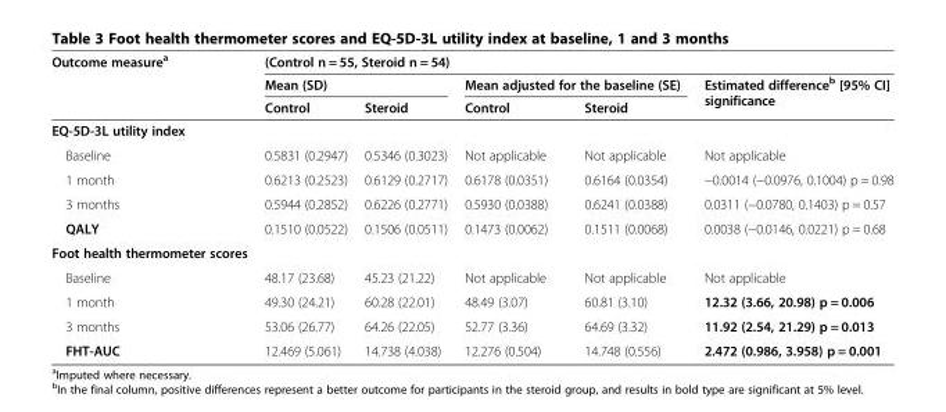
<table><thead><tr><td rowspan="3">Outcome measure<sup>a</sup></td><td colspan="5">(Control n = 55, Steroid n = 54)</td></tr><tr><td colspan="2">Mean (SD)</td><td colspan="2">Mean adjusted for the baseline (SE)</td><td rowspan="2">Estimated difference<sup>b</sup> [95% CI] significance</td></tr><tr><td>Control</td><td>Steroid</td><td>Control</td><td>Steroid</td></tr></thead><tbody><tr><td colspan="6">EQ-5D-3L utility index</td></tr><tr><td>Baseline</td><td>0.5831 (0.2947)</td><td>0.5346 (0.3023)</td><td>Not applicable</td><td>Not applicable</td><td>Not applicable</td></tr><tr><td>1 month</td><td>0.6213 (0.2523)</td><td>0.6129 (0.2717)</td><td>0.6178 (0.0351)</td><td>0.6164 (0.0354)</td><td>−0.0014 (−0.0976, 0.1004) p = 0.98</td></tr><tr><td>3 months</td><td>0.5944 (0.2852)</td><td>0.6226 (0.2771)</td><td>0.5930 (0.0388)</td><td>0.6241 (0.0388)</td><td>0.0311 (−0.0780, 0.1403) p = 0.57</td></tr><tr><td>QALY</td><td>0.1510 (0.0522)</td><td>0.1506 (0.0511)</td><td>0.1473 (0.0062)</td><td>0.1511 (0.0068)</td><td>0.0038 (−0.0146, 0.0221) p = 0.68</td></tr><tr><td colspan="6">Foot health thermometer scores</td></tr><tr><td>Baseline</td><td>48.17 (23.68)</td><td>45.23 (21.22)</td><td>Not applicable</td><td>Not applicable</td><td>Not applicable</td></tr><tr><td>1 month</td><td>49.30 (24.21)</td><td>60.28 (22.01)</td><td>48.49 (3.07)</td><td>60.81 (3.10)</td><td>12.32 (3.66, 20.98) p = 0.006</td></tr><tr><td>3 months</td><td>53.06 (26.77)</td><td>64.26 (22.05)</td><td>52.77 (3.36)</td><td>64.69 (3.32)</td><td>11.92 (2.54, 21.29) p = 0.013</td></tr><tr><td>FHT-AUC</td><td>12.469 (5.061)</td><td>14.738 (4.038)</td><td>12.276 (0.504)</td><td>14.748 (0.556)</td><td>2.472 (0.986, 3.958) p = 0.001</td></tr></tbody></table>